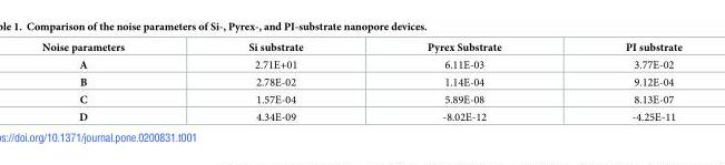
<table><thead><tr><td>Noise parameters</td><td>Si substrate</td><td>Pyrex Substrate</td><td>PI substrate</td></tr></thead><tbody><tr><td>A</td><td>2.71E+01</td><td>6.11E-03</td><td>3.77E-02</td></tr><tr><td>B</td><td>2.78E-02</td><td>1.14E-04</td><td>9.12E-04</td></tr><tr><td>C</td><td>1.57E-04</td><td>5.89E-08</td><td>8.13E-07</td></tr><tr><td>D</td><td>4.34E-09</td><td>-8.02E-12</td><td>-4.25E-11</td></tr></tbody></table>